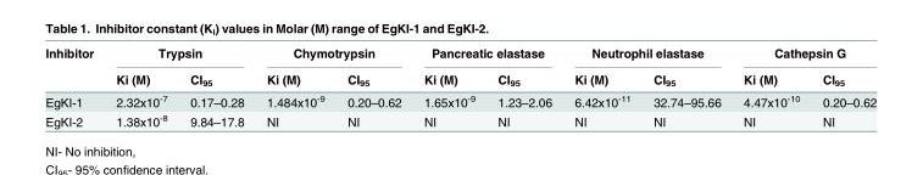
<table><thead><tr><td rowspan="2">Inhibitor</td><td colspan="2">Trypsin</td><td colspan="2">Chymotrypsin</td><td colspan="2">Pancreatic elastase</td><td colspan="2">Neutrophil elastase</td><td colspan="2">Cathepsin G</td></tr><tr><td>Ki (M)</td><td>CI<sub>95</sub></td><td>Ki (M)</td><td>CI<sub>95</sub></td><td>Ki (M)</td><td>CI<sub>95</sub></td><td>Ki (M)</td><td>CI<sub>95</sub></td><td>Ki (M)</td><td>CI<sub>95</sub></td></tr></thead><tbody><tr><td>EgKI-1</td><td>2.32x10<sup>-7</sup></td><td>0.17–0.28</td><td>1.484x10<sup>-9</sup></td><td>0.20–0.62</td><td>1.65x10<sup>-9</sup></td><td>1.23–2.06</td><td>6.42x10<sup>-11</sup></td><td>32.74–95.66</td><td>4.47x10<sup>-10</sup></td><td>0.20–0.62</td></tr><tr><td>EgKI-2</td><td>1.38x10<sup>-8</sup></td><td>9.84–17.8</td><td>NI</td><td>NI</td><td>NI</td><td>NI</td><td>NI</td><td>NI</td><td>NI</td><td>NI</td></tr></tbody></table>